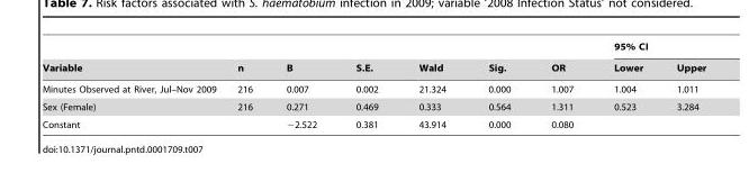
<table><thead><tr><td rowspan="2">Variable</td><td rowspan="2">n</td><td rowspan="2">B</td><td rowspan="2">S.E.</td><td rowspan="2">Wald</td><td rowspan="2">Sig.</td><td rowspan="2">OR</td><td colspan="2">95% CI</td></tr><tr><td>Lower</td><td>Upper</td></tr></thead><tbody><tr><td>Minutes Observed at River, Jul–Nov 2009</td><td>216</td><td>0.007</td><td>0.002</td><td>21.324</td><td>0.000</td><td>1.007</td><td>1.004</td><td>1.011</td></tr><tr><td>Sex (Female)</td><td>216</td><td>0.271</td><td>0.469</td><td>0.333</td><td>0.564</td><td>1.311</td><td>0.523</td><td>3.284</td></tr><tr><td>Constant</td><td></td><td>−2.522</td><td>0.381</td><td>43.914</td><td>0.000</td><td>0.080</td><td></td><td></td></tr></tbody></table>